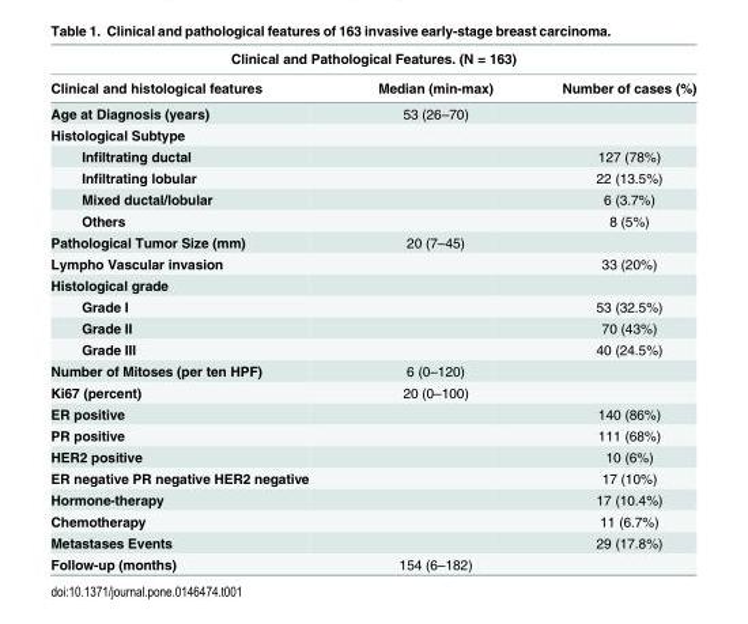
<table><thead><tr><td colspan="3">Clinical and Pathological Features. (N = 163)</td></tr><tr><td>Clinical and histological features</td><td>Median (min-max)</td><td>Number of cases (%)</td></tr></thead><tbody><tr><td>Age at Diagnosis (years)</td><td>53 (26–70)</td><td></td></tr><tr><td colspan="3">Histological Subtype</td></tr><tr><td>Infiltrating ductal</td><td></td><td>127 (78%)</td></tr><tr><td>Infiltrating lobular</td><td></td><td>22 (13.5%)</td></tr><tr><td>Mixed ductal/lobular</td><td></td><td>6 (3.7%)</td></tr><tr><td>Others</td><td></td><td>8 (5%)</td></tr><tr><td>Pathological Tumor Size (mm)</td><td>20 (7–45)</td><td></td></tr><tr><td>Lympho Vascular invasion</td><td></td><td>33 (20%)</td></tr><tr><td colspan="3">Histological grade</td></tr><tr><td>Grade I</td><td></td><td>53 (32.5%)</td></tr><tr><td>Grade II</td><td></td><td>70 (43%)</td></tr><tr><td>Grade III</td><td></td><td>40 (24.5%)</td></tr><tr><td>Number of Mitoses (per ten HPF)</td><td>6 (0–120)</td><td></td></tr><tr><td>Ki67 (percent)</td><td>20 (0–100)</td><td></td></tr><tr><td>ER positive</td><td></td><td>140 (86%)</td></tr><tr><td>PR positive</td><td></td><td>111 (68%)</td></tr><tr><td>HER2 positive</td><td></td><td>10 (6%)</td></tr><tr><td>ER negative PR negative HER2 negative</td><td></td><td>17 (10%)</td></tr><tr><td>Hormone-therapy</td><td></td><td>17 (10.4%)</td></tr><tr><td>Chemotherapy</td><td></td><td>11 (6.7%)</td></tr><tr><td>Metastases Events</td><td></td><td>29 (17.8%)</td></tr><tr><td>Follow-up (months)</td><td>154 (6–182)</td><td></td></tr></tbody></table>